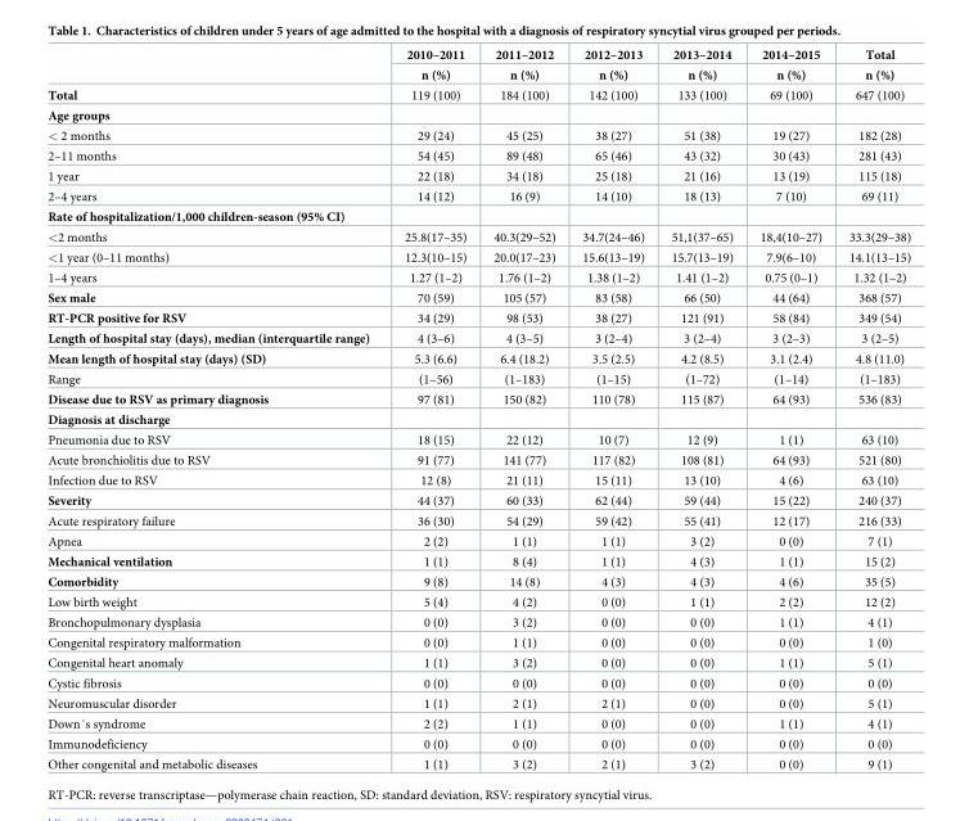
<table><thead><tr><td rowspan="2"></td><td rowspan="2">2010–2011 n (%)</td><td rowspan="2">2011–2012 n (%)</td><td rowspan="2">2012–2013 n (%)</td><td rowspan="2">2013–2014 n (%)</td><td rowspan="2">2014–2015 n (%)</td><td rowspan="2">Total n (%)</td></tr><tr></tr></thead><tbody><tr><td>Total</td><td>119 (100)</td><td>184 (100)</td><td>142 (100)</td><td>133 (100)</td><td>69 (100)</td><td>647 (100)</td></tr><tr><td colspan="7">Age groups</td></tr><tr><td>&lt; 2 months</td><td>29 (24)</td><td>45 (25)</td><td>38 (27)</td><td>51 (38)</td><td>19 (27)</td><td>182 (28)</td></tr><tr><td>2–11 months</td><td>54 (45)</td><td>89 (48)</td><td>65 (46)</td><td>43 (32)</td><td>30 (43)</td><td>281 (43)</td></tr><tr><td>1 year</td><td>22 (18)</td><td>34 (18)</td><td>25 (18)</td><td>21 (16)</td><td>13 (19)</td><td>115 (18)</td></tr><tr><td>2–4 years</td><td>14 (12)</td><td>16 (9)</td><td>14 (10)</td><td>18 (13)</td><td>7 (10)</td><td>69 (11)</td></tr><tr><td colspan="7">Rate of hospitalization/1,000 children-season (95% CI)</td></tr><tr><td>&lt;2 months</td><td>25.8(17–35)</td><td>40.3(29–52)</td><td>34.7(24–46)</td><td>51,1(37–65)</td><td>18,4(10–27)</td><td>33.3(29–38)</td></tr><tr><td>&lt;1 year (0–11 months)</td><td>12.3(10–15)</td><td>20.0(17–23)</td><td>15.6(13–19)</td><td>15.7(13–19)</td><td>7.9(6–10)</td><td>14.1(13–15)</td></tr><tr><td>1–4 years</td><td>1.27 (1–2)</td><td>1.76 (1–2)</td><td>1.38 (1–2)</td><td>1.41 (1–2)</td><td>0.75 (0–1)</td><td>1.32 (1–2)</td></tr><tr><td>Sex male</td><td>70 (59)</td><td>105 (57)</td><td>83 (58)</td><td>66 (50)</td><td>44 (64)</td><td>368 (57)</td></tr><tr><td>RT-PCR positive for RSV</td><td>34 (29)</td><td>98 (53)</td><td>38 (27)</td><td>121 (91)</td><td>58 (84)</td><td>349 (54)</td></tr><tr><td>Length of hospital stay (days), median (interquartile range)</td><td>4 (3–6)</td><td>4 (3–5)</td><td>3 (2–4)</td><td>3 (2–4)</td><td>3 (2–3)</td><td>3 (2–5)</td></tr><tr><td>Mean length of hospital stay (days) (SD)</td><td>5.3 (6.6)</td><td>6.4 (18.2)</td><td>3.5 (2.5)</td><td>4.2 (8.5)</td><td>3.1 (2.4)</td><td>4.8 (11.0)</td></tr><tr><td>Range</td><td>(1–56)</td><td>(1–183)</td><td>(1–15)</td><td>(1–72)</td><td>(1–14)</td><td>(1–183)</td></tr><tr><td>Disease due to RSV as primary diagnosis</td><td>97 (81)</td><td>150 (82)</td><td>110 (78)</td><td>115 (87)</td><td>64 (93)</td><td>536 (83)</td></tr><tr><td colspan="7">Diagnosis at discharge</td></tr><tr><td>Pneumonia due to RSV</td><td>18 (15)</td><td>22 (12)</td><td>10 (7)</td><td>12 (9)</td><td>1 (1)</td><td>63 (10)</td></tr><tr><td>Acute bronchiolitis due to RSV</td><td>91 (77)</td><td>141 (77)</td><td>117 (82)</td><td>108 (81)</td><td>64 (93)</td><td>521 (80)</td></tr><tr><td>Infection due to RSV</td><td>12 (8)</td><td>21 (11)</td><td>15 (11)</td><td>13 (10)</td><td>4 (6)</td><td>63 (10)</td></tr><tr><td>Severity</td><td>44 (37)</td><td>60 (33)</td><td>62 (44)</td><td>59 (44)</td><td>15 (22)</td><td>240 (37)</td></tr><tr><td>Acute respiratory failure</td><td>36 (30)</td><td>54 (29)</td><td>59 (42)</td><td>55 (41)</td><td>12 (17)</td><td>216 (33)</td></tr><tr><td>Apnea</td><td>2 (2)</td><td>1 (1)</td><td>1 (1)</td><td>3 (2)</td><td>0 (0)</td><td>7 (1)</td></tr><tr><td>Mechanical ventilation</td><td>1 (1)</td><td>8 (4)</td><td>1 (1)</td><td>4 (3)</td><td>1 (1)</td><td>15 (2)</td></tr><tr><td>Comorbidity</td><td>9 (8)</td><td>14 (8)</td><td>4 (3)</td><td>4 (3)</td><td>4 (6)</td><td>35 (5)</td></tr><tr><td>Low birth weight</td><td>5 (4)</td><td>4 (2)</td><td>0 (0)</td><td>1 (1)</td><td>2 (2)</td><td>12 (2)</td></tr><tr><td>Bronchopulmonary dysplasia</td><td>0 (0)</td><td>3 (2)</td><td>0 (0)</td><td>0 (0)</td><td>1 (1)</td><td>4 (1)</td></tr><tr><td>Congenital respiratory malformation</td><td>0 (0)</td><td>1 (1)</td><td>0 (0)</td><td>0 (0)</td><td>0 (0)</td><td>1 (0)</td></tr><tr><td>Congenital heart anomaly</td><td>1 (1)</td><td>3 (2)</td><td>0 (0)</td><td>0 (0)</td><td>1 (1)</td><td>5 (1)</td></tr><tr><td>Cystic fibrosis</td><td>0 (0)</td><td>0 (0)</td><td>0 (0)</td><td>0 (0)</td><td>0 (0)</td><td>0 (0)</td></tr><tr><td>Neuromuscular disorder</td><td>1 (1)</td><td>2 (1)</td><td>2 (1)</td><td>0 (0)</td><td>0 (0)</td><td>5 (1)</td></tr><tr><td>Down´s syndrome</td><td>2 (2)</td><td>1 (1)</td><td>0 (0)</td><td>0 (0)</td><td>1 (1)</td><td>4 (1)</td></tr><tr><td>Immunodeficiency</td><td>0 (0)</td><td>0 (0)</td><td>0 (0)</td><td>0 (0)</td><td>0 (0)</td><td>0 (0)</td></tr><tr><td>Other congenital and metabolic diseases</td><td>1 (1)</td><td>3 (2)</td><td>2 (1)</td><td>3 (2)</td><td>0 (0)</td><td>9 (1)</td></tr></tbody></table>